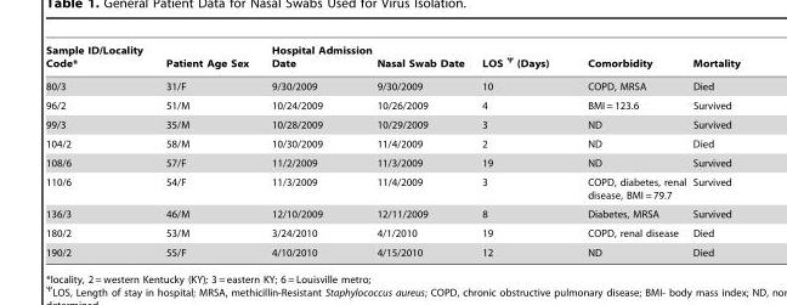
<table><thead><tr><td>Sample ID/Locality Code*</td><td>Patient Age Sex</td><td>Hospital Admission Date</td><td>Nasal Swab Date</td><td>LOS Ψ (Days)</td><td>Comorbidity</td><td>Mortality</td></tr></thead><tbody><tr><td>80/3</td><td>31/F</td><td>9/30/2009</td><td>9/30/2009</td><td>10</td><td>COPD, MRSA</td><td>Died</td></tr><tr><td>96/2</td><td>51/M</td><td>10/24/2009</td><td>10/26/2009</td><td>4</td><td>BMI = 123.6</td><td>Survived</td></tr><tr><td>99/3</td><td>35/M</td><td>10/28/2009</td><td>10/29/2009</td><td>3</td><td>ND</td><td>Survived</td></tr><tr><td>104/2</td><td>58/M</td><td>10/30/2009</td><td>11/4/2009</td><td>2</td><td>ND</td><td>Died</td></tr><tr><td>108/6</td><td>57/F</td><td>11/2/2009</td><td>11/3/2009</td><td>19</td><td>ND</td><td>Survived</td></tr><tr><td>110/6</td><td>54/F</td><td>11/3/2009</td><td>11/4/2009</td><td>3</td><td>COPD, diabetes, renal disease, BMI = 79.7</td><td>Survived</td></tr><tr><td>136/3</td><td>46/M</td><td>12/10/2009</td><td>12/11/2009</td><td>8</td><td>Diabetes, MRSA</td><td>Survived</td></tr><tr><td>180/2</td><td>53/M</td><td>3/24/2010</td><td>4/1/2010</td><td>19</td><td>COPD, renal disease</td><td>Died</td></tr><tr><td>190/2</td><td>55/F</td><td>4/10/2010</td><td>4/15/2010</td><td>12</td><td>ND</td><td>Died</td></tr></tbody></table>